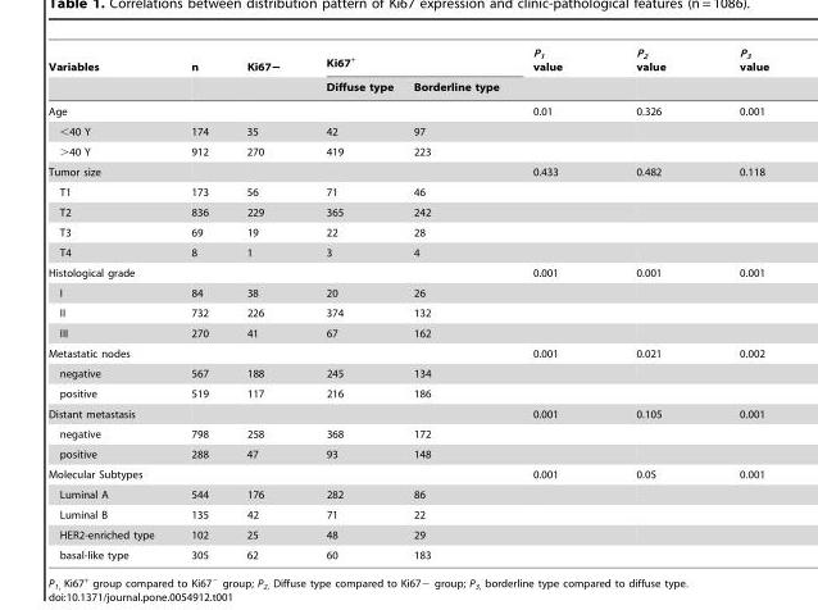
<table><thead><tr><td rowspan="2">Variables</td><td rowspan="2">n</td><td rowspan="2">Ki67−</td><td colspan="2">Ki67<sup>+</sup></td><td rowspan="2">P<sub>1</sub> value</td><td rowspan="2">P<sub>2</sub> value</td><td rowspan="2">P<sub>3</sub> value</td></tr><tr><td>Diffuse type</td><td>Borderline type</td></tr></thead><tbody><tr><td>Age</td><td></td><td></td><td></td><td></td><td>0.01</td><td>0.326</td><td>0.001</td></tr><tr><td>&lt;40 Y</td><td>174</td><td>35</td><td>42</td><td>97</td><td></td><td></td><td></td></tr><tr><td>&gt;40 Y</td><td>912</td><td>270</td><td>419</td><td>223</td><td></td><td></td><td></td></tr><tr><td>Tumor size</td><td></td><td></td><td></td><td></td><td>0.433</td><td>0.482</td><td>0.118</td></tr><tr><td>T1</td><td>173</td><td>56</td><td>71</td><td>46</td><td></td><td></td><td></td></tr><tr><td>T2</td><td>836</td><td>229</td><td>365</td><td>242</td><td></td><td></td><td></td></tr><tr><td>T3</td><td>69</td><td>19</td><td>22</td><td>28</td><td></td><td></td><td></td></tr><tr><td>T4</td><td>8</td><td>1</td><td>3</td><td>4</td><td></td><td></td><td></td></tr><tr><td>Histological grade</td><td></td><td></td><td></td><td></td><td>0.001</td><td>0.001</td><td>0.001</td></tr><tr><td>I</td><td>84</td><td>38</td><td>20</td><td>26</td><td></td><td></td><td></td></tr><tr><td>II</td><td>732</td><td>226</td><td>374</td><td>132</td><td></td><td></td><td></td></tr><tr><td>III</td><td>270</td><td>41</td><td>67</td><td>162</td><td></td><td></td><td></td></tr><tr><td>Metastatic nodes</td><td></td><td></td><td></td><td></td><td>0.001</td><td>0.021</td><td>0.002</td></tr><tr><td>negative</td><td>567</td><td>188</td><td>245</td><td>134</td><td></td><td></td><td></td></tr><tr><td>positive</td><td>519</td><td>117</td><td>216</td><td>186</td><td></td><td></td><td></td></tr><tr><td>Distant metastasis</td><td></td><td></td><td></td><td></td><td>0.001</td><td>0.105</td><td>0.001</td></tr><tr><td>negative</td><td>798</td><td>258</td><td>368</td><td>172</td><td></td><td></td><td></td></tr><tr><td>positive</td><td>288</td><td>47</td><td>93</td><td>148</td><td></td><td></td><td></td></tr><tr><td>Molecular Subtypes</td><td></td><td></td><td></td><td></td><td>0.001</td><td>0.05</td><td>0.001</td></tr><tr><td>Luminal A</td><td>544</td><td>176</td><td>282</td><td>86</td><td></td><td></td><td></td></tr><tr><td>Luminal B</td><td>135</td><td>42</td><td>71</td><td>22</td><td></td><td></td><td></td></tr><tr><td>HER2-enriched type</td><td>102</td><td>25</td><td>48</td><td>29</td><td></td><td></td><td></td></tr><tr><td>basal-like type</td><td>305</td><td>62</td><td>60</td><td>183</td><td></td><td></td><td></td></tr></tbody></table>